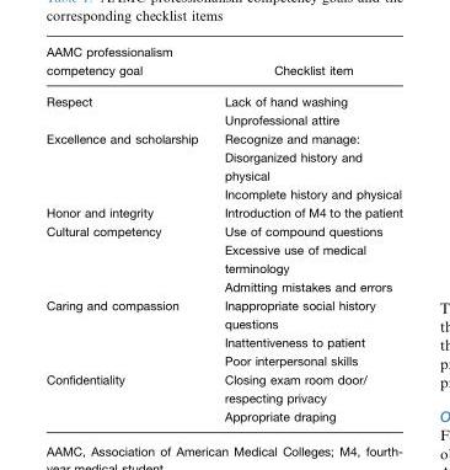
<table><thead><tr><td>AAMC professionalism competency goal</td><td>Checklist item</td></tr></thead><tbody><tr><td rowspan="2">Respect</td><td>Lack of hand washing</td></tr><tr><td>Unprofessional attire</td></tr><tr><td rowspan="2">Excellence and scholarship</td><td>Recognize and manage: Disorganized history and physical</td></tr><tr><td>Incomplete history and physical</td></tr><tr><td>Honor and integrity</td><td>Introduction of M4 to the patient</td></tr><tr><td rowspan="2">Cultural competency</td><td>Use of compound questions</td></tr><tr><td>Excessive use of medical terminology Admitting mistakes and errors</td></tr><tr><td rowspan="3">Caring and compassion</td><td>Inappropriate social history questions</td></tr><tr><td>Inattentiveness to patient</td></tr><tr><td>Poor interpersonal skills</td></tr><tr><td>Confidentiality</td><td>Closing exam room door/ respecting privacy Appropriate draping</td></tr></tbody></table>